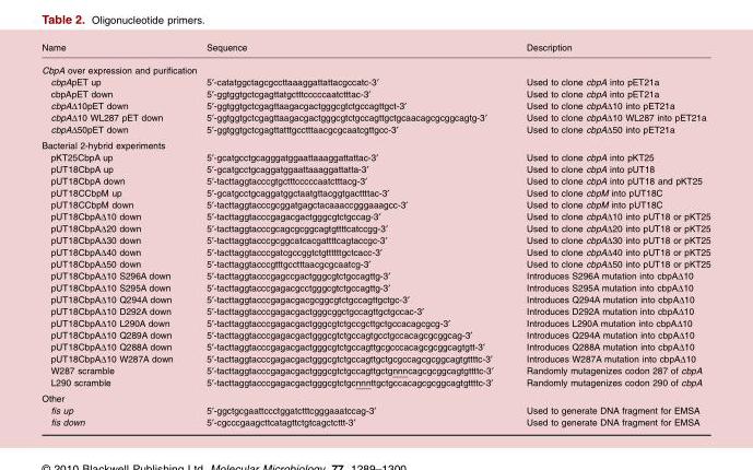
<table><thead><tr><td>Name</td><td>Sequence</td><td>Description</td></tr></thead><tbody><tr><td colspan="3">CbpA over expression and purification</td></tr><tr><td>cbpApET up</td><td>5′-catatggctagcgccttaaaggattattacgccatc-3′</td><td>Used to clone cbpA into pET21a</td></tr><tr><td>cbpApET down</td><td>5′-ggtggtgctcgagttatgctttcccccaatctttac-3′</td><td>Used to clone cbpA into pET21a</td></tr><tr><td>cbpAΔ10pET down</td><td>5′-ggtggtgctcgagttaagacgactgggcgtctgccagttgct-3′</td><td>Used to clone cbpAΔ10 into pET21a</td></tr><tr><td>cbpAΔ10 WL287 pET down</td><td>5′-ggtggtgctcgagttaagacgactgggcgtctgccagttgctgcaacagcgcggcagtg-3′</td><td>Used to clone cbpAΔ10 WL287 into pET21a</td></tr><tr><td>cbpAΔ50pET down</td><td>5′-ggtggtgctcgagttatttgcctttaacgcgcaatcgttgcc-3′</td><td>Used to clone cbpAΔ50 into pET21a</td></tr><tr><td colspan="3">Bacterial 2-hybrid experiments</td></tr><tr><td>pKT25CbpA up</td><td>5′-gcatgcctgcagggatggaattaaaggattattac-3′</td><td>Used to clone cbpA into pKT25</td></tr><tr><td>pUT18CbpA up</td><td>5′-gcatgcctgcaggatggaattaaaggattatta-3′</td><td>Used to clone cbpA into pUT18</td></tr><tr><td>pUT18CbpA down</td><td>5′-tacttaggtacccgtgctttcccccaatctttacg-3′</td><td>Used to clone cbpA into pUT18 and pKT25</td></tr><tr><td>pUT18CCbpM up</td><td>5′-gcatgcctgcaggatggctaatgttacggtgacttttac-3′</td><td>Used to clone cbpM into pUT18C</td></tr><tr><td>pUT18CCbpM down</td><td>5′-tacttaggtacccgcggatgagctacaaaccgggaaagcc-3′</td><td>Used to clone cbpM into pUT18C</td></tr><tr><td>pUT18CbpAΔ10 down</td><td>5′-tacttaggtacccgagacgactgggcgtctgccag-3′</td><td>Used to clone cbpAΔ10 into pUT18 or pKT25</td></tr><tr><td>pUT18CbpAΔ20 down</td><td>5′-tacttaggtacccgcagcgcggcagtgttttcatccgg-3′</td><td>Used to clone cbpAΔ20 into pUT18 or pKT25</td></tr><tr><td>pUT18CbpAΔ30 down</td><td>5′-tacttaggtacccgcggcatcacgattttcagtaccgc-3′</td><td>Used to clone cbpAΔ30 into pUT18 or pKT25</td></tr><tr><td>pUT18CbpAΔ40 down</td><td>5′-tacttaggtacccgatcgccggtctgttttttgctcacc-3′</td><td>Used to clone cbpAΔ40 into pUT18 or pKT25</td></tr><tr><td>pUT18CbpAΔ50 down</td><td>5′-tacttaggtacccgtttgcctttaacgcgcaatcg-3′</td><td>Used to clone cbpAΔ50 into pUT18 or pKT25</td></tr><tr><td>pUT18CbpAΔ10 S296A down</td><td>5′-tacttaggtacccgagccgactgggcgtctgccagttg-3′</td><td>Introduces S296A mutation into cbpAΔ10</td></tr><tr><td>pUT18CbpAΔ10 S295A down</td><td>5′-tacttaggtacccgagacgcctgggcgtctgccagttg-3′</td><td>Introduces S295A mutation into cbpAΔ10</td></tr><tr><td>pUT18CbpAΔ10 Q294A down</td><td>5′-tacttaggtacccgagacgacgcggcgtctgccagttgctgc-3′</td><td>Introduces Q294A mutation into cbpAΔ10</td></tr><tr><td>pUT18CbpAΔ10 D292A down</td><td>5′-tacttaggtacccgagacgactgggcggctgccagttgctgccac-3′</td><td>Introduces D292A mutation into cbpAΔ10</td></tr><tr><td>pUT18CbpAΔ10 L290A down</td><td>5′-tacttaggtacccgagacgactgggcgtctgccgcttgctgccacagcgcg-3′</td><td>Introduces L290A mutation into cbpAΔ10</td></tr><tr><td>pUT18CbpAΔ10 Q289A down</td><td>5′-tacttaggtacccgagacgactgggcgtctgccagtgcctgccacagcgcggcag-3′</td><td>Introduces Q294A mutation into cbpAΔ10</td></tr><tr><td>pUT18CbpAΔ10 Q288A down</td><td>5′-tacttaggtacccgagacgactgggcgtctgccagttgcgcccacagcgcggcagtgtt-3′</td><td>Introduces Q288A mutation into cbpAΔ10</td></tr><tr><td>pUT18CbpAΔ10 W287A down</td><td>5′-tacttaggtacccgagacgactgggcgtctgccagttgctgcgccagcgcggcagtgttttc-3′</td><td>Introduces W287A mutation into cbpAΔ10</td></tr><tr><td>W287 scramble</td><td>5′-tacttaggtacccgagacgactgggcgtctgccagttgctgnnncagcgcggcagtgttttc-3′</td><td>Randomly mutagenizes codon 287 of cbpA</td></tr><tr><td>L290 scramble</td><td>5′-tacttaggtacccgagacgactgggcgtctgcnnnttgctgccacagcgcggcagtgttttc-3′</td><td>Randomly mutagenizes codon 290 of cbpA</td></tr><tr><td colspan="3">Other</td></tr><tr><td>fis up</td><td>5′-ggctgcgaattccctggatctttcgggaaatccag-3′</td><td>Used to generate DNA fragment for EMSA</td></tr><tr><td>fis down</td><td>5′-cgcccgaagcttcatagttctgtcagctcttt-3′</td><td>Used to generate DNA fragment for EMSA</td></tr></tbody></table>